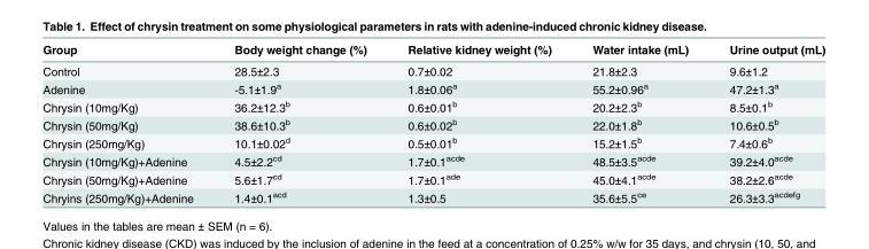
<table><thead><tr><td>Group</td><td>Body weight change (%)</td><td>Relative kidney weight (%)</td><td>Water intake (mL)</td><td>Urine output (mL)</td></tr></thead><tbody><tr><td>Control</td><td>28.5±2.3</td><td>0.7±0.02</td><td>21.8±2.3</td><td>9.6±1.2</td></tr><tr><td>Adenine</td><td>-5.1±1.9<sup>a</sup></td><td>1.8±0.06<sup>a</sup></td><td>55.2±0.96<sup>a</sup></td><td>47.2±1.3<sup>a</sup></td></tr><tr><td>Chrysin (10mg/Kg)</td><td>36.2±12.3<sup>b</sup></td><td>0.6±0.01<sup>b</sup></td><td>20.2±2.3<sup>b</sup></td><td>8.5±0.1<sup>b</sup></td></tr><tr><td>Chrysin (50mg/Kg)</td><td>38.6±10.3<sup>b</sup></td><td>0.6±0.02<sup>b</sup></td><td>22.0±1.8<sup>b</sup></td><td>10.6±0.5<sup>b</sup></td></tr><tr><td>Chrysin (250mg/Kg)</td><td>10.1±0.02<sup>d</sup></td><td>0.5±0.01<sup>b</sup></td><td>15.2±1.5<sup>b</sup></td><td>7.4±0.6<sup>b</sup></td></tr><tr><td>Chrysin (10mg/Kg)+Adenine</td><td>4.5±2.2<sup>cd</sup></td><td>1.7±0.1<sup>acde</sup></td><td>48.5±3.5<sup>acde</sup></td><td>39.2±4.0<sup>acde</sup></td></tr><tr><td>Chrysin (50mg/Kg)+Adenine</td><td>5.6±1.7<sup>cd</sup></td><td>1.7±0.1<sup>ade</sup></td><td>45.0±4.1<sup>acde</sup></td><td>38.2±2.6<sup>acde</sup></td></tr><tr><td>Chryins (250mg/Kg)+Adenine</td><td>1.4±0.1<sup>acd</sup></td><td>1.3±0.5</td><td>35.6±5.5<sup>ce</sup></td><td>26.3±3.3<sup>acdefg</sup></td></tr></tbody></table>